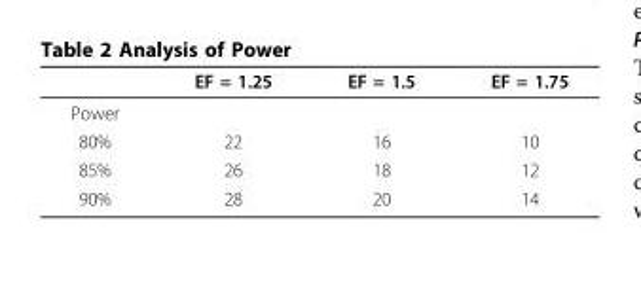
<table><thead><tr><td></td><td>EF = 1.25</td><td>EF = 1.5</td><td>EF = 1.75</td></tr></thead><tbody><tr><td colspan="4">Power</td></tr><tr><td>80%</td><td>22</td><td>16</td><td>10</td></tr><tr><td>85%</td><td>26</td><td>18</td><td>12</td></tr><tr><td>90%</td><td>28</td><td>20</td><td>14</td></tr></tbody></table>